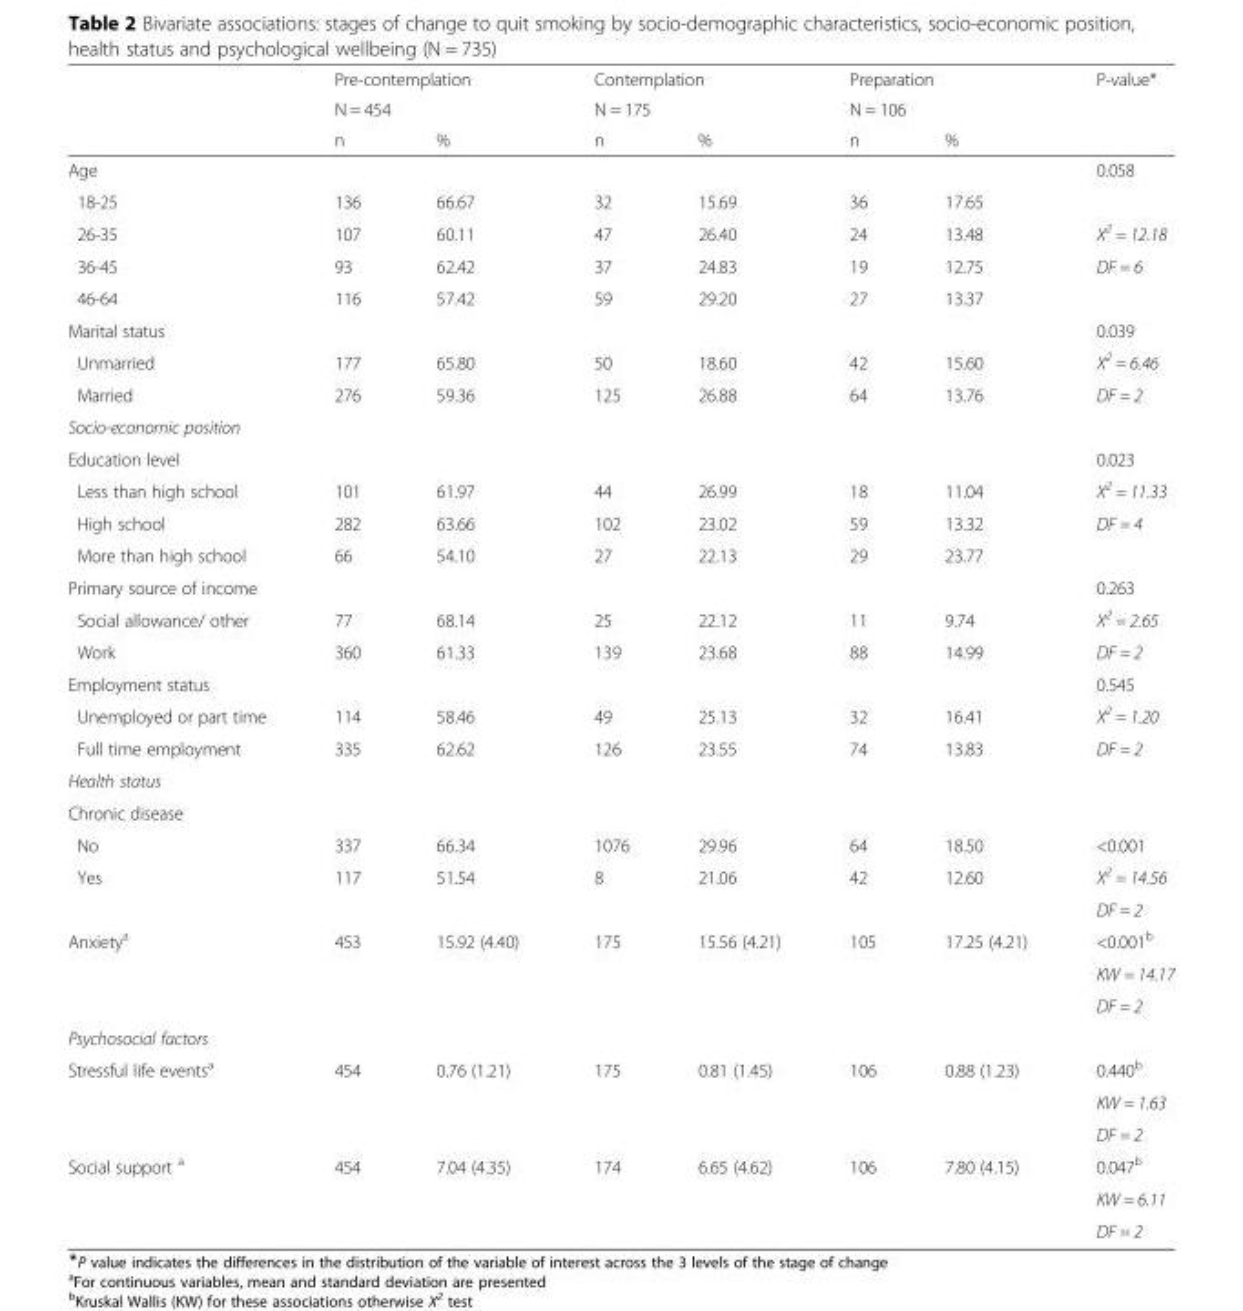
<table><thead><tr><td rowspan="3"></td><td rowspan="2" colspan="2">Pre-contemplation N = 454</td><td rowspan="2" colspan="2">Contemplation N = 175</td><td rowspan="2" colspan="2">Preparation N = 106</td><td rowspan="3">P-value*</td></tr><tr></tr><tr><td>n</td><td>%</td><td>n</td><td>%</td><td>n</td><td>%</td></tr></thead><tbody><tr><td>Age</td><td></td><td></td><td></td><td></td><td></td><td></td><td>0.058</td></tr><tr><td>18-25</td><td>136</td><td>66.67</td><td>32</td><td>15.69</td><td>36</td><td>17.65</td><td></td></tr><tr><td>26-35</td><td>107</td><td>60.11</td><td>47</td><td>26.40</td><td>24</td><td>13.48</td><td>X<sup>2</sup> = 12.18</td></tr><tr><td>36-45</td><td>93</td><td>62.42</td><td>37</td><td>24.83</td><td>19</td><td>12.75</td><td rowspan="2">DF = 6</td></tr><tr><td>46-64</td><td>116</td><td>57.42</td><td>59</td><td>29.20</td><td>27</td><td>13.37</td></tr><tr><td>Marital status</td><td></td><td></td><td></td><td></td><td></td><td></td><td>0.039</td></tr><tr><td>Unmarried</td><td>177</td><td>65.80</td><td>50</td><td>18.60</td><td>42</td><td>15.60</td><td>X<sup>2</sup> = 6.46</td></tr><tr><td>Married</td><td>276</td><td>59.36</td><td>125</td><td>26.88</td><td>64</td><td>13.76</td><td>DF = 2</td></tr><tr><td colspan="8">Socio-economic position</td></tr><tr><td>Education level</td><td></td><td></td><td></td><td></td><td></td><td></td><td>0.023</td></tr><tr><td>Less than high school</td><td>101</td><td>61.97</td><td>44</td><td>26.99</td><td>18</td><td>11.04</td><td>X<sup>2</sup> = 11.33</td></tr><tr><td>High school</td><td>282</td><td>63.66</td><td>102</td><td>23.02</td><td>59</td><td>13.32</td><td rowspan="2">DF = 4</td></tr><tr><td>More than high school</td><td>66</td><td>54.10</td><td>27</td><td>22.13</td><td>29</td><td>23.77</td></tr><tr><td>Primary source of income</td><td></td><td></td><td></td><td></td><td></td><td></td><td>0.263</td></tr><tr><td>Social allowance/ other</td><td>77</td><td>68.14</td><td>25</td><td>22.12</td><td>11</td><td>9.74</td><td>X<sup>2</sup> = 2.65</td></tr><tr><td>Work</td><td>360</td><td>61.33</td><td>139</td><td>23.68</td><td>88</td><td>14.99</td><td>DF = 2</td></tr><tr><td>Employment status</td><td></td><td></td><td></td><td></td><td></td><td></td><td>0.545</td></tr><tr><td>Unemployed or part time</td><td>114</td><td>58.46</td><td>49</td><td>25.13</td><td>32</td><td>16.41</td><td>X<sup>2</sup> = 1.20</td></tr><tr><td>Full time employment</td><td>335</td><td>62.62</td><td>126</td><td>23.55</td><td>74</td><td>13.83</td><td>DF = 2</td></tr><tr><td colspan="8">Health status</td></tr><tr><td colspan="8">Chronic disease</td></tr><tr><td>No</td><td>337</td><td>66.34</td><td>1076</td><td>29.96</td><td>64</td><td>18.50</td><td>&lt;0.001</td></tr><tr><td rowspan="2">Yes</td><td>117</td><td>51.54</td><td>8</td><td>21.06</td><td>42</td><td>12.60</td><td>X<sup>2</sup> = 14.56</td></tr><tr><td></td><td></td><td></td><td></td><td></td><td></td><td>DF = 2</td></tr><tr><td rowspan="3">Anxiety<sup>a</sup></td><td rowspan="3">453</td><td rowspan="3">15.92 (4.40)</td><td rowspan="3">175</td><td rowspan="3">15.56 (4.21)</td><td rowspan="3">105</td><td rowspan="3">17.25 (4.21)</td><td>&lt;0.001<sup>b</sup></td></tr><tr><td>KW = 14.17</td></tr><tr><td>DF = 2</td></tr><tr><td colspan="8">Psychosocial factors</td></tr><tr><td rowspan="3">Stressful life events<sup>a</sup></td><td rowspan="3">454</td><td rowspan="3">0.76 (1.21)</td><td rowspan="3">175</td><td rowspan="3">0.81 (1.45)</td><td rowspan="3">106</td><td rowspan="3">0.88 (1.23)</td><td>0.440<sup>b</sup></td></tr><tr><td>KW = 1.63</td></tr><tr><td>DF = 2</td></tr><tr><td rowspan="3">Social support <sup>a</sup></td><td rowspan="3">454</td><td rowspan="3">7.04 (4.35)</td><td rowspan="3">174</td><td rowspan="3">6.65 (4.62)</td><td rowspan="3">106</td><td rowspan="3">7.80 (4.15)</td><td>0.047<sup>b</sup></td></tr><tr><td>KW = 6.11</td></tr><tr><td>DF = 2</td></tr></tbody></table>